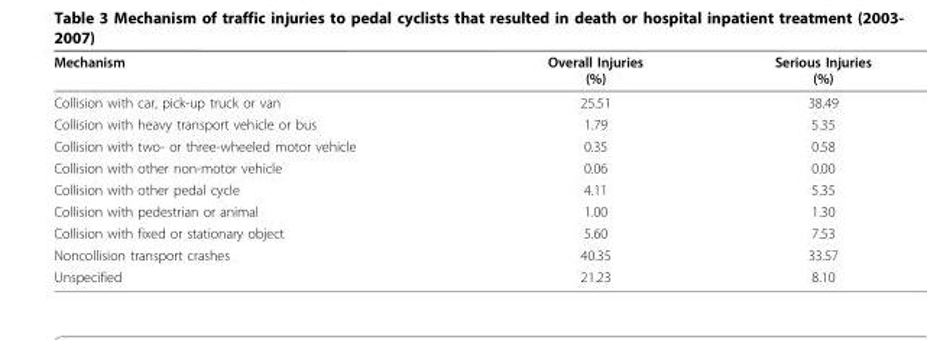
<table><thead><tr><td>Mechanism</td><td>Overall Injuries (%)</td><td>Serious Injuries (%)</td></tr></thead><tbody><tr><td>Collision with car, pick-up truck or van</td><td>25.51</td><td>38.49</td></tr><tr><td>Collision with heavy transport vehicle or bus</td><td>1.79</td><td>5.35</td></tr><tr><td>Collision with two- or three-wheeled motor vehicle</td><td>0.35</td><td>0.58</td></tr><tr><td>Collision with other non-motor vehicle</td><td>0.06</td><td>0.00</td></tr><tr><td>Collision with other pedal cycle</td><td>4.11</td><td>5.35</td></tr><tr><td>Collision with pedestrian or animal</td><td>1.00</td><td>1.30</td></tr><tr><td>Collision with fixed or stationary object</td><td>5.60</td><td>7.53</td></tr><tr><td>Noncollision transport crashes</td><td>40.35</td><td>33.57</td></tr><tr><td>Unspecified</td><td>21.23</td><td>8.10</td></tr></tbody></table>